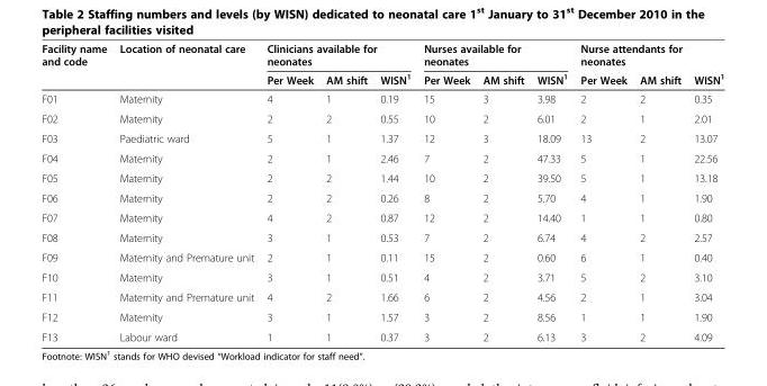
<table><thead><tr><td rowspan="2">Facility name and code</td><td rowspan="2">Location of neonatal care</td><td colspan="3">Clinicians available for neonates</td><td colspan="3">Nurses available for neonates</td><td colspan="3">Nurse attendants for neonates</td></tr><tr><td>Per Week</td><td>AM shift</td><td>WISN<sup>1</sup></td><td>Per Week</td><td>AM shift</td><td>WISN<sup>1</sup></td><td>Per Week</td><td>AM shift</td><td>WISN<sup>1</sup></td></tr></thead><tbody><tr><td>F01</td><td>Maternity</td><td>4</td><td>1</td><td>0.19</td><td>15</td><td>3</td><td>3.98</td><td>2</td><td>2</td><td>0.35</td></tr><tr><td>F02</td><td>Maternity</td><td>2</td><td>2</td><td>0.55</td><td>10</td><td>2</td><td>6.01</td><td>2</td><td>1</td><td>2.01</td></tr><tr><td>F03</td><td>Paediatric ward</td><td>5</td><td>1</td><td>1.37</td><td>12</td><td>3</td><td>18.09</td><td>13</td><td>2</td><td>13.07</td></tr><tr><td>F04</td><td>Maternity</td><td>2</td><td>1</td><td>2.46</td><td>7</td><td>2</td><td>47.33</td><td>5</td><td>1</td><td>22.56</td></tr><tr><td>F05</td><td>Maternity</td><td>2</td><td>2</td><td>1.44</td><td>10</td><td>2</td><td>39.50</td><td>5</td><td>1</td><td>13.18</td></tr><tr><td>F06</td><td>Maternity</td><td>2</td><td>2</td><td>0.26</td><td>8</td><td>2</td><td>5.70</td><td>4</td><td>1</td><td>1.90</td></tr><tr><td>F07</td><td>Maternity</td><td>4</td><td>2</td><td>0.87</td><td>12</td><td>2</td><td>14.40</td><td>1</td><td>1</td><td>0.80</td></tr><tr><td>F08</td><td>Maternity</td><td>3</td><td>1</td><td>0.53</td><td>7</td><td>2</td><td>6.74</td><td>4</td><td>2</td><td>2.57</td></tr><tr><td>F09</td><td>Maternity and Premature unit</td><td>2</td><td>1</td><td>0.11</td><td>15</td><td>2</td><td>0.60</td><td>6</td><td>1</td><td>0.40</td></tr><tr><td>F10</td><td>Maternity</td><td>3</td><td>1</td><td>0.51</td><td>4</td><td>2</td><td>3.71</td><td>5</td><td>2</td><td>3.10</td></tr><tr><td>F11</td><td>Maternity and Premature unit</td><td>4</td><td>2</td><td>1.66</td><td>6</td><td>2</td><td>4.56</td><td>2</td><td>1</td><td>3.04</td></tr><tr><td>F12</td><td>Maternity</td><td>3</td><td>1</td><td>1.57</td><td>3</td><td>2</td><td>8.56</td><td>1</td><td>1</td><td>1.90</td></tr><tr><td>F13</td><td>Labour ward</td><td>1</td><td>1</td><td>0.37</td><td>3</td><td>2</td><td>6.13</td><td>3</td><td>2</td><td>4.09</td></tr></tbody></table>